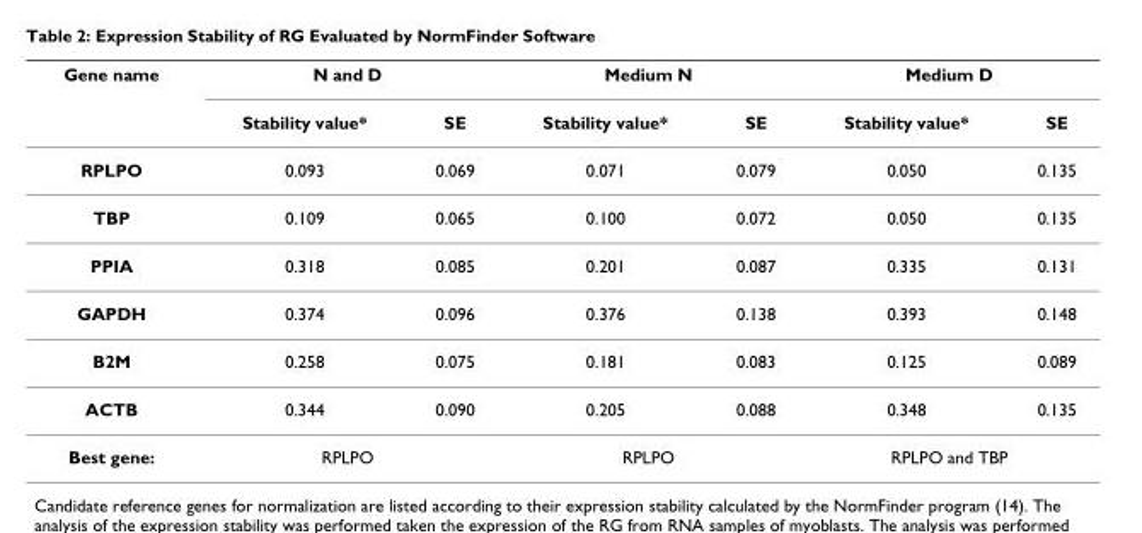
<table><thead><tr><td rowspan="2">Gene name</td><td colspan="2">N and D</td><td colspan="2">Medium N</td><td colspan="2">Medium D</td></tr><tr><td>Stability value*</td><td>SE</td><td>Stability value*</td><td>SE</td><td>Stability value*</td><td>SE</td></tr></thead><tbody><tr><td>RPLPO</td><td>0.093</td><td>0.069</td><td>0.071</td><td>0.079</td><td>0.050</td><td>0.135</td></tr><tr><td>TBP</td><td>0.109</td><td>0.065</td><td>0.100</td><td>0.072</td><td>0.050</td><td>0.135</td></tr><tr><td>PPIA</td><td>0.318</td><td>0.085</td><td>0.201</td><td>0.087</td><td>0.335</td><td>0.131</td></tr><tr><td>GAPDH</td><td>0.374</td><td>0.096</td><td>0.376</td><td>0.138</td><td>0.393</td><td>0.148</td></tr><tr><td>B2M</td><td>0.258</td><td>0.075</td><td>0.181</td><td>0.083</td><td>0.125</td><td>0.089</td></tr><tr><td>ACTB</td><td>0.344</td><td>0.090</td><td>0.205</td><td>0.088</td><td>0.348</td><td>0.135</td></tr><tr><td>Best gene:</td><td colspan="2">RPLPO</td><td colspan="2">RPLPO</td><td colspan="2">RPLPO and TBP</td></tr></tbody></table>